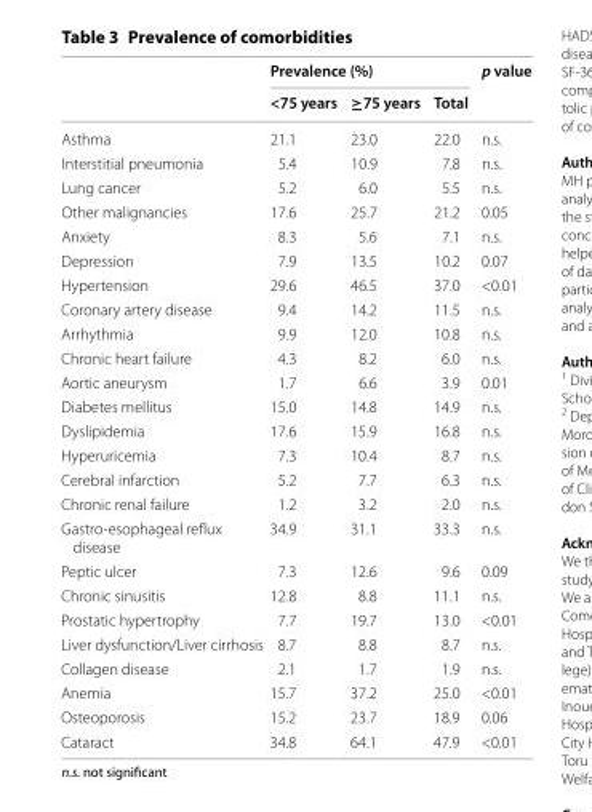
<table><thead><tr><td rowspan="2"></td><td colspan="3">Prevalence (%)</td><td rowspan="2">p value</td></tr><tr><td>&lt;75 years</td><td>≥75 years</td><td>Total</td></tr></thead><tbody><tr><td>Asthma</td><td>21.1</td><td>23.0</td><td>22.0</td><td>n.s.</td></tr><tr><td>Interstitial pneumonia</td><td>5.4</td><td>10.9</td><td>7.8</td><td>n.s.</td></tr><tr><td>Lung cancer</td><td>5.2</td><td>6.0</td><td>5.5</td><td>n.s.</td></tr><tr><td>Other malignancies</td><td>17.6</td><td>25.7</td><td>21.2</td><td>0.05</td></tr><tr><td>Anxiety</td><td>8.3</td><td>5.6</td><td>7.1</td><td>n.s.</td></tr><tr><td>Depression</td><td>7.9</td><td>13.5</td><td>10.2</td><td>0.07</td></tr><tr><td>Hypertension</td><td>29.6</td><td>46.5</td><td>37.0</td><td>&lt;0.01</td></tr><tr><td>Coronary artery disease</td><td>9.4</td><td>14.2</td><td>11.5</td><td>n.s.</td></tr><tr><td>Arrhythmia</td><td>9.9</td><td>12.0</td><td>10.8</td><td>n.s.</td></tr><tr><td>Chronic heart failure</td><td>4.3</td><td>8.2</td><td>6.0</td><td>n.s.</td></tr><tr><td>Aortic aneurysm</td><td>1.7</td><td>6.6</td><td>3.9</td><td>0.01</td></tr><tr><td>Diabetes mellitus</td><td>15.0</td><td>14.8</td><td>14.9</td><td>n.s.</td></tr><tr><td>Dyslipidemia</td><td>17.6</td><td>15.9</td><td>16.8</td><td>n.s.</td></tr><tr><td>Hyperuricemia</td><td>7.3</td><td>10.4</td><td>8.7</td><td>n.s.</td></tr><tr><td>Cerebral infarction</td><td>5.2</td><td>7.7</td><td>6.3</td><td>n.s.</td></tr><tr><td>Chronic renal failure</td><td>1.2</td><td>3.2</td><td>2.0</td><td>n.s.</td></tr><tr><td>Gastro-esophageal reflux disease</td><td>34.9</td><td>31.1</td><td>33.3</td><td>n.s.</td></tr><tr><td>Peptic ulcer</td><td>7.3</td><td>12.6</td><td>9.6</td><td>0.09</td></tr><tr><td>Chronic sinusitis</td><td>12.8</td><td>8.8</td><td>11.1</td><td>n.s.</td></tr><tr><td>Prostatic hypertrophy</td><td>7.7</td><td>19.7</td><td>13.0</td><td>&lt;0.01</td></tr><tr><td>Liver dysfunction/Liver cirrhosis</td><td>8.7</td><td>8.8</td><td>8.7</td><td>n.s.</td></tr><tr><td>Collagen disease</td><td>2.1</td><td>1.7</td><td>1.9</td><td>n.s.</td></tr><tr><td>Anemia</td><td>15.7</td><td>37.2</td><td>25.0</td><td>&lt;0.01</td></tr><tr><td>Osteoporosis</td><td>15.2</td><td>23.7</td><td>18.9</td><td>0.06</td></tr><tr><td>Cataract</td><td>34.8</td><td>64.1</td><td>47.9</td><td>&lt;0.01</td></tr></tbody></table>